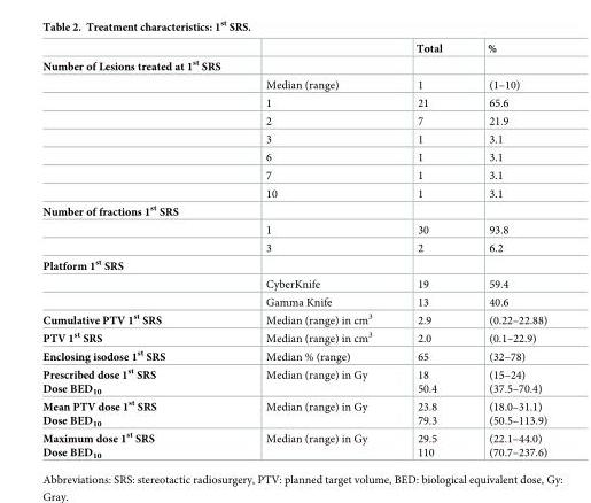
<table><thead><tr><td></td><td></td><td>Total</td><td>%</td></tr></thead><tbody><tr><td colspan="4">Number of Lesions treated at 1<sup>st</sup> SRS</td></tr><tr><td></td><td>Median (range)</td><td>1</td><td>(1–10)</td></tr><tr><td></td><td>1</td><td>21</td><td>65.6</td></tr><tr><td></td><td>2</td><td>7</td><td>21.9</td></tr><tr><td></td><td>3</td><td>1</td><td>3.1</td></tr><tr><td></td><td>6</td><td>1</td><td>3.1</td></tr><tr><td></td><td>7</td><td>1</td><td>3.1</td></tr><tr><td></td><td>10</td><td>1</td><td>3.1</td></tr><tr><td colspan="4">Number of fractions 1<sup>st</sup> SRS</td></tr><tr><td></td><td>1</td><td>30</td><td>93.8</td></tr><tr><td></td><td>3</td><td>2</td><td>6.2</td></tr><tr><td colspan="4">Platform 1<sup>st</sup> SRS</td></tr><tr><td></td><td>CyberKnife</td><td>19</td><td>59.4</td></tr><tr><td></td><td>Gamma Knife</td><td>13</td><td>40.6</td></tr><tr><td>Cumulative PTV 1<sup>st</sup> SRS</td><td>Median (range) in cm<sup>3</sup></td><td>2.9</td><td>(0.22–22.88)</td></tr><tr><td>PTV 1<sup>st</sup> SRS</td><td>Median (range) in cm<sup>3</sup></td><td>2.0</td><td>(0.1–22.9)</td></tr><tr><td>Enclosing isodose 1<sup>st</sup> SRS</td><td>Median % (range)</td><td>65</td><td>(32–78)</td></tr><tr><td>Prescribed dose 1<sup>st</sup> SRS Dose BED<sub>10</sub></td><td>Median (range) in Gy</td><td>18 50.4</td><td>(15–24) (37.5–70.4)</td></tr><tr><td>Mean PTV dose 1<sup>st</sup> SRS Dose BED<sub>10</sub></td><td>Median (range) in Gy</td><td>23.8 79.3</td><td>(18.0–31.1) (50.5–113.9)</td></tr><tr><td>Maximum dose 1<sup>st</sup> SRS Dose BED<sub>10</sub></td><td>Median (range) in Gy</td><td>29.5 110</td><td>(22.1–44.0) (70.7–237.6)</td></tr></tbody></table>